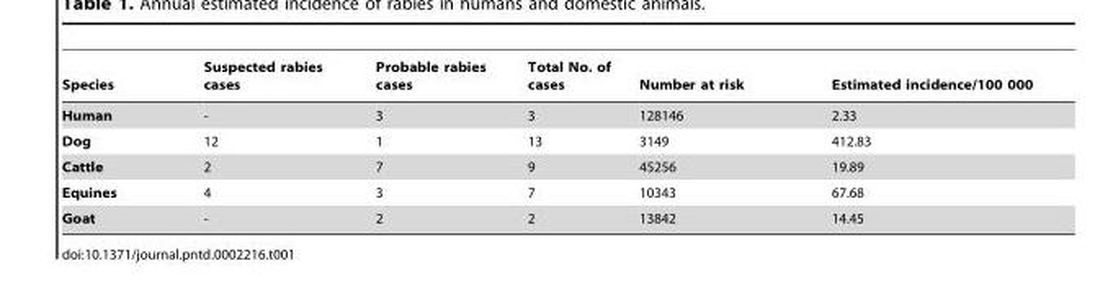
<table><thead><tr><td>Species</td><td>Suspected rabies cases</td><td>Probable rabies cases</td><td>Total No. of cases</td><td>Number at risk</td><td>Estimated incidence/100 000</td></tr></thead><tbody><tr><td>Human</td><td>-</td><td>3</td><td>3</td><td>128146</td><td>2.33</td></tr><tr><td>Dog</td><td>12</td><td>1</td><td>13</td><td>3149</td><td>412.83</td></tr><tr><td>Cattle</td><td>2</td><td>7</td><td>9</td><td>45256</td><td>19.89</td></tr><tr><td>Equines</td><td>4</td><td>3</td><td>7</td><td>10343</td><td>67.68</td></tr><tr><td>Goat</td><td>-</td><td>2</td><td>2</td><td>13842</td><td>14.45</td></tr></tbody></table>